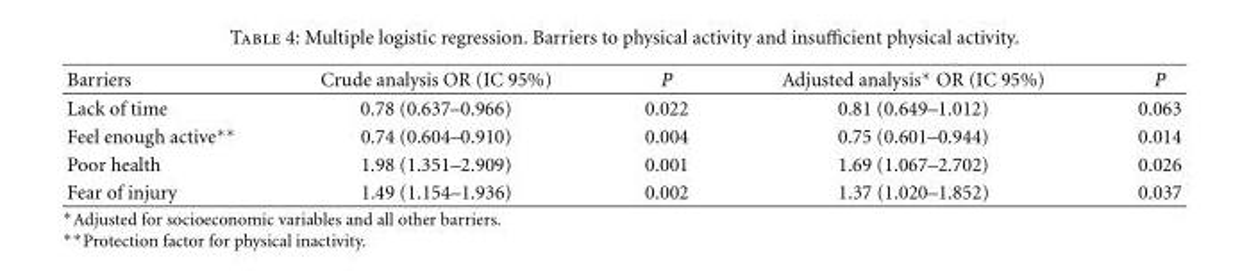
<table><thead><tr><td>Barriers</td><td>Crude analysis OR (IC 95%)</td><td>P</td><td>Adjusted analysis∗ OR (IC 95%)</td><td>P</td></tr></thead><tbody><tr><td>Lack of time</td><td>0.78 (0.637–0.966)</td><td>0.022</td><td>0.81 (0.649–1.012)</td><td>0.063</td></tr><tr><td>Feel enough active∗∗</td><td>0.74 (0.604–0.910)</td><td>0.004</td><td>0.75 (0.601–0.944)</td><td>0.014</td></tr><tr><td>Poor health</td><td>1.98 (1.351–2.909)</td><td>0.001</td><td>1.69 (1.067–2.702)</td><td>0.026</td></tr><tr><td>Fear of injury</td><td>1.49 (1.154–1.936)</td><td>0.002</td><td>1.37 (1.020–1.852)</td><td>0.037</td></tr></tbody></table>